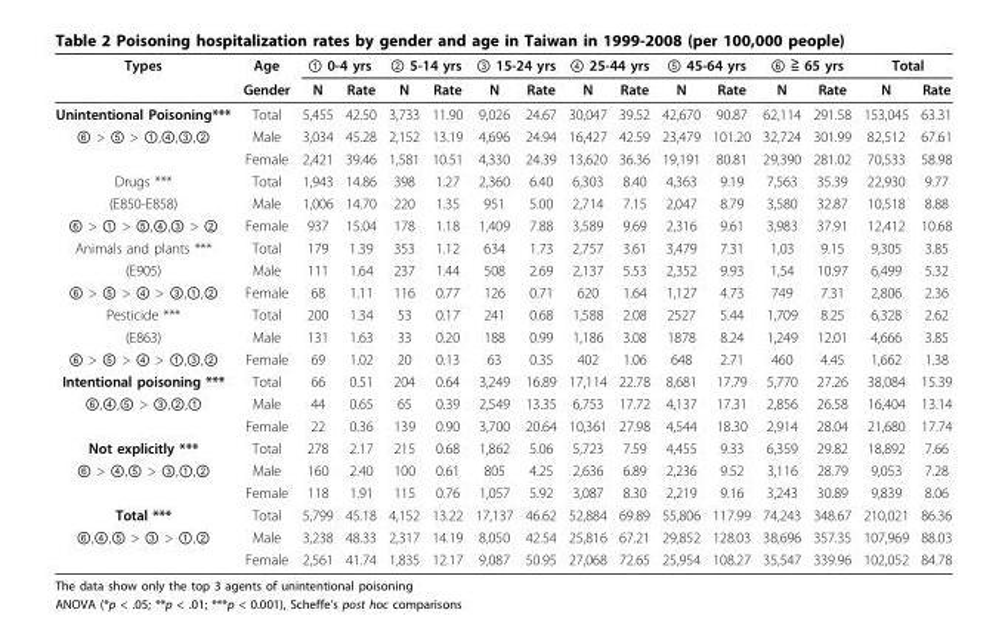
<table><thead><tr><td rowspan="2">Types</td><td rowspan="2">Age Gender</td><td colspan="2">① 0-4 yrs</td><td colspan="2">② 5-14 yrs</td><td colspan="2">③ 15-24 yrs</td><td colspan="2">④ 25-44 yrs</td><td colspan="2">⑤ 45-64 yrs</td><td colspan="2">⑥ ≧ 65 yrs</td><td colspan="2">Total</td></tr><tr><td>N</td><td>Rate</td><td>N</td><td>Rate</td><td>N</td><td>Rate</td><td>N</td><td>Rate</td><td>N</td><td>Rate</td><td>N</td><td>Rate</td><td>N</td><td>Rate</td></tr></thead><tbody><tr><td>Unintentional Poisoning***</td><td>Total</td><td>5,455</td><td>42.50</td><td>3,733</td><td>11.90</td><td>9,026</td><td>24.67</td><td>30,047</td><td>39.52</td><td>42,670</td><td>90.87</td><td>62,114</td><td>291.58</td><td>153,045</td><td>63.31</td></tr><tr><td rowspan="2">⑥ &gt; ⑤ &gt; ①,④,③,②</td><td>Male</td><td>3,034</td><td>45.28</td><td>2,152</td><td>13.19</td><td>4,696</td><td>24.94</td><td>16,427</td><td>42.59</td><td>23,479</td><td>101.20</td><td>32,724</td><td>301.99</td><td>82,512</td><td>67.61</td></tr><tr><td>Female</td><td>2,421</td><td>39.46</td><td>1,581</td><td>10.51</td><td>4,330</td><td>24.39</td><td>13,620</td><td>36.36</td><td>19,191</td><td>80.81</td><td>29,390</td><td>281.02</td><td>70,533</td><td>58.98</td></tr><tr><td>Drugs ***</td><td>Total</td><td>1,943</td><td>14.86</td><td>398</td><td>1.27</td><td>2,360</td><td>6.40</td><td>6,303</td><td>8.40</td><td>4,363</td><td>9.19</td><td>7,563</td><td>35.39</td><td>22,930</td><td>9.77</td></tr><tr><td>(E850-E858)</td><td>Male</td><td>1,006</td><td>14.70</td><td>220</td><td>1.35</td><td>951</td><td>5.00</td><td>2,714</td><td>7.15</td><td>2,047</td><td>8.79</td><td>3,580</td><td>32.87</td><td>10,518</td><td>8.88</td></tr><tr><td>⑥ &gt; ① &gt; ⑤,④,③ &gt; ②</td><td>Female</td><td>937</td><td>15.04</td><td>178</td><td>1.18</td><td>1,409</td><td>7.88</td><td>3,589</td><td>9.69</td><td>2,316</td><td>9.61</td><td>3,983</td><td>37.91</td><td>12,412</td><td>10.68</td></tr><tr><td>Animals and plants ***</td><td>Total</td><td>179</td><td>1.39</td><td>353</td><td>1.12</td><td>634</td><td>1.73</td><td>2,757</td><td>3.61</td><td>3,479</td><td>7.31</td><td>1,03</td><td>9.15</td><td>9,305</td><td>3.85</td></tr><tr><td>(E905)</td><td>Male</td><td>111</td><td>1.64</td><td>237</td><td>1.44</td><td>508</td><td>2.69</td><td>2,137</td><td>5.53</td><td>2,352</td><td>9.93</td><td>1,54</td><td>10.97</td><td>6,499</td><td>5.32</td></tr><tr><td>⑥ &gt; ⑤ &gt; ④ &gt; ③,①,②</td><td>Female</td><td>68</td><td>1.11</td><td>116</td><td>0.77</td><td>126</td><td>0.71</td><td>620</td><td>1.64</td><td>1,127</td><td>4.73</td><td>749</td><td>7.31</td><td>2,806</td><td>2.36</td></tr><tr><td>Pesticide ***</td><td>Total</td><td>200</td><td>1.34</td><td>53</td><td>0.17</td><td>241</td><td>0.68</td><td>1,588</td><td>2.08</td><td>2527</td><td>5.44</td><td>1,709</td><td>8.25</td><td>6,328</td><td>2.62</td></tr><tr><td>(E863)</td><td>Male</td><td>131</td><td>1.63</td><td>33</td><td>0.20</td><td>188</td><td>0.99</td><td>1,186</td><td>3.08</td><td>1878</td><td>8.24</td><td>1,249</td><td>12.01</td><td>4,666</td><td>3.85</td></tr><tr><td>⑥ &gt; ⑤ &gt; ④ &gt; ①,③,②</td><td>Female</td><td>69</td><td>1.02</td><td>20</td><td>0.13</td><td>63</td><td>0.35</td><td>402</td><td>1.06</td><td>648</td><td>2.71</td><td>460</td><td>4.45</td><td>1,662</td><td>1.38</td></tr><tr><td>Intentional poisoning ***</td><td>Total</td><td>66</td><td>0.51</td><td>204</td><td>0.64</td><td>3,249</td><td>16.89</td><td>17,114</td><td>22.78</td><td>8,681</td><td>17.79</td><td>5,770</td><td>27.26</td><td>38,084</td><td>15.39</td></tr><tr><td rowspan="2">⑥,④,⑤ &gt; ③,②,①</td><td>Male</td><td>44</td><td>0.65</td><td>65</td><td>0.39</td><td>2,549</td><td>13.35</td><td>6,753</td><td>17.72</td><td>4,137</td><td>17.31</td><td>2,856</td><td>26.58</td><td>16,404</td><td>13.14</td></tr><tr><td>Female</td><td>22</td><td>0.36</td><td>139</td><td>0.90</td><td>3,700</td><td>20.64</td><td>10,361</td><td>27.98</td><td>4,544</td><td>18.30</td><td>2,914</td><td>28.04</td><td>21,680</td><td>17.74</td></tr><tr><td>Not explicitly ***</td><td>Total</td><td>278</td><td>2.17</td><td>215</td><td>0.68</td><td>1,862</td><td>5.06</td><td>5,723</td><td>7.59</td><td>4,455</td><td>9.33</td><td>6,359</td><td>29.82</td><td>18,892</td><td>7.66</td></tr><tr><td rowspan="2">⑥ &gt; ④,⑤ &gt; ③,①,②</td><td>Male</td><td>160</td><td>2.40</td><td>100</td><td>0.61</td><td>805</td><td>4.25</td><td>2,636</td><td>6.89</td><td>2,236</td><td>9.52</td><td>3,116</td><td>28.79</td><td>9,053</td><td>7.28</td></tr><tr><td>Female</td><td>118</td><td>1.91</td><td>115</td><td>0.76</td><td>1,057</td><td>5.92</td><td>3,087</td><td>8.30</td><td>2,219</td><td>9.16</td><td>3,243</td><td>30.89</td><td>9,839</td><td>8.06</td></tr><tr><td>Total ***</td><td>Total</td><td>5,799</td><td>45.18</td><td>4,152</td><td>13.22</td><td>17,137</td><td>46.62</td><td>52,884</td><td>69.89</td><td>55,806</td><td>117.99</td><td>74,243</td><td>348.67</td><td>210,021</td><td>86.36</td></tr><tr><td rowspan="2">⑥,④,⑤ &gt; ③ &gt; ①,②</td><td>Male</td><td>3,238</td><td>48.33</td><td>2,317</td><td>14.19</td><td>8,050</td><td>42.54</td><td>25,816</td><td>67.21</td><td>29,852</td><td>128.03</td><td>38,696</td><td>357.35</td><td>107,969</td><td>88.03</td></tr><tr><td>Female</td><td>2,561</td><td>41.74</td><td>1,835</td><td>12.17</td><td>9,087</td><td>50.95</td><td>27,068</td><td>72.65</td><td>25,954</td><td>108.27</td><td>35,547</td><td>339.96</td><td>102,052</td><td>84.78</td></tr></tbody></table>